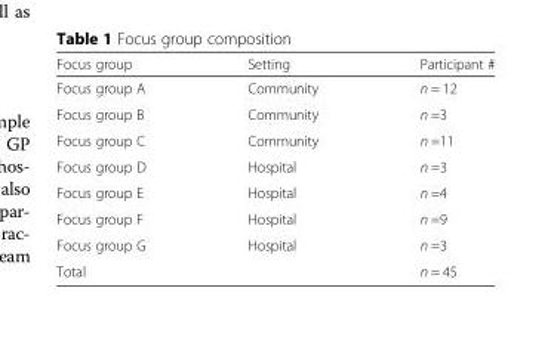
<table><thead><tr><td>Focus group</td><td>Setting</td><td>Participant #</td></tr></thead><tbody><tr><td>Focus group A</td><td>Community</td><td>n = 12</td></tr><tr><td>Focus group B</td><td>Community</td><td>n =3</td></tr><tr><td>Focus group C</td><td>Community</td><td>n =11</td></tr><tr><td>Focus group D</td><td>Hospital</td><td>n =3</td></tr><tr><td>Focus group E</td><td>Hospital</td><td>n =4</td></tr><tr><td>Focus group F</td><td>Hospital</td><td>n =9</td></tr><tr><td>Focus group G</td><td>Hospital</td><td>n =3</td></tr><tr><td>Total</td><td></td><td>n = 45</td></tr></tbody></table>